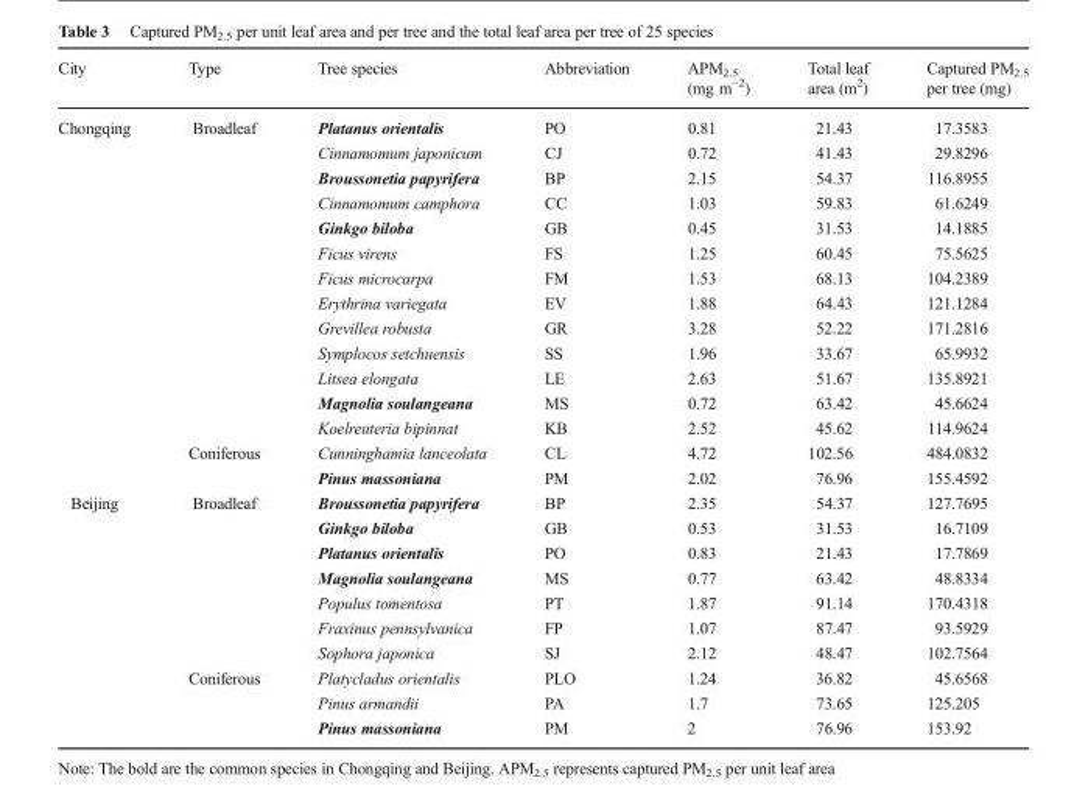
<table><thead><tr><td>City</td><td>Type</td><td>Tree species</td><td>Abbreviation</td><td>APM<sub>2.5</sub> (mg m<sup>−2</sup>)</td><td>Total leaf area (m<sup>2</sup>)</td><td>Captured PM<sub>2.5</sub> per tree (mg)</td></tr></thead><tbody><tr><td rowspan="15">Chongqing</td><td rowspan="13">Broadleaf</td><td>Platanus orientalis</td><td>PO</td><td>0.81</td><td>21.43</td><td>17.3583</td></tr><tr><td>Cinnamomum japonicum</td><td>CJ</td><td>0.72</td><td>41.43</td><td>29.8296</td></tr><tr><td>Broussonetia papyrifera</td><td>BP</td><td>2.15</td><td>54.37</td><td>116.8955</td></tr><tr><td>Cinnamomum camphora</td><td>CC</td><td>1.03</td><td>59.83</td><td>61.6249</td></tr><tr><td>Ginkgo biloba</td><td>GB</td><td>0.45</td><td>31.53</td><td>14.1885</td></tr><tr><td>Ficus virens</td><td>FS</td><td>1.25</td><td>60.45</td><td>75.5625</td></tr><tr><td>Ficus microcarpa</td><td>FM</td><td>1.53</td><td>68.13</td><td>104.2389</td></tr><tr><td>Erythrina variegata</td><td>EV</td><td>1.88</td><td>64.43</td><td>121.1284</td></tr><tr><td>Grevillea robusta</td><td>GR</td><td>3.28</td><td>52.22</td><td>171.2816</td></tr><tr><td>Symplocos setchuensis</td><td>SS</td><td>1.96</td><td>33.67</td><td>65.9932</td></tr><tr><td>Litsea elongata</td><td>LE</td><td>2.63</td><td>51.67</td><td>135.8921</td></tr><tr><td>Magnolia soulangeana</td><td>MS</td><td>0.72</td><td>63.42</td><td>45.6624</td></tr><tr><td>Koelreuteria bipinnat</td><td>KB</td><td>2.52</td><td>45.62</td><td>114.9624</td></tr><tr><td rowspan="2">Coniferous</td><td>Cunninghamia lanceolata</td><td>CL</td><td>4.72</td><td>102.56</td><td>484.0832</td></tr><tr><td>Pinus massoniana</td><td>PM</td><td>2.02</td><td>76.96</td><td>155.4592</td></tr><tr><td rowspan="10">Beijing</td><td rowspan="7">Broadleaf</td><td>Broussonetia papyrifera</td><td>BP</td><td>2.35</td><td>54.37</td><td>127.7695</td></tr><tr><td>Ginkgo biloba</td><td>GB</td><td>0.53</td><td>31.53</td><td>16.7109</td></tr><tr><td>Platanus orientalis</td><td>PO</td><td>0.83</td><td>21.43</td><td>17.7869</td></tr><tr><td>Magnolia soulangeana</td><td>MS</td><td>0.77</td><td>63.42</td><td>48.8334</td></tr><tr><td>Populus tomentosa</td><td>PT</td><td>1.87</td><td>91.14</td><td>170.4318</td></tr><tr><td>Fraxinus pennsylvanica</td><td>FP</td><td>1.07</td><td>87.47</td><td>93.5929</td></tr><tr><td>Sophora japonica</td><td>SJ</td><td>2.12</td><td>48.47</td><td>102.7564</td></tr><tr><td rowspan="3">Coniferous</td><td>Platycladus orientalis</td><td>PLO</td><td>1.24</td><td>36.82</td><td>45.6568</td></tr><tr><td>Pinus armandii</td><td>PA</td><td>1.7</td><td>73.65</td><td>125.205</td></tr><tr><td>Pinus massoniana</td><td>PM</td><td>2</td><td>76.96</td><td>153.92</td></tr></tbody></table>